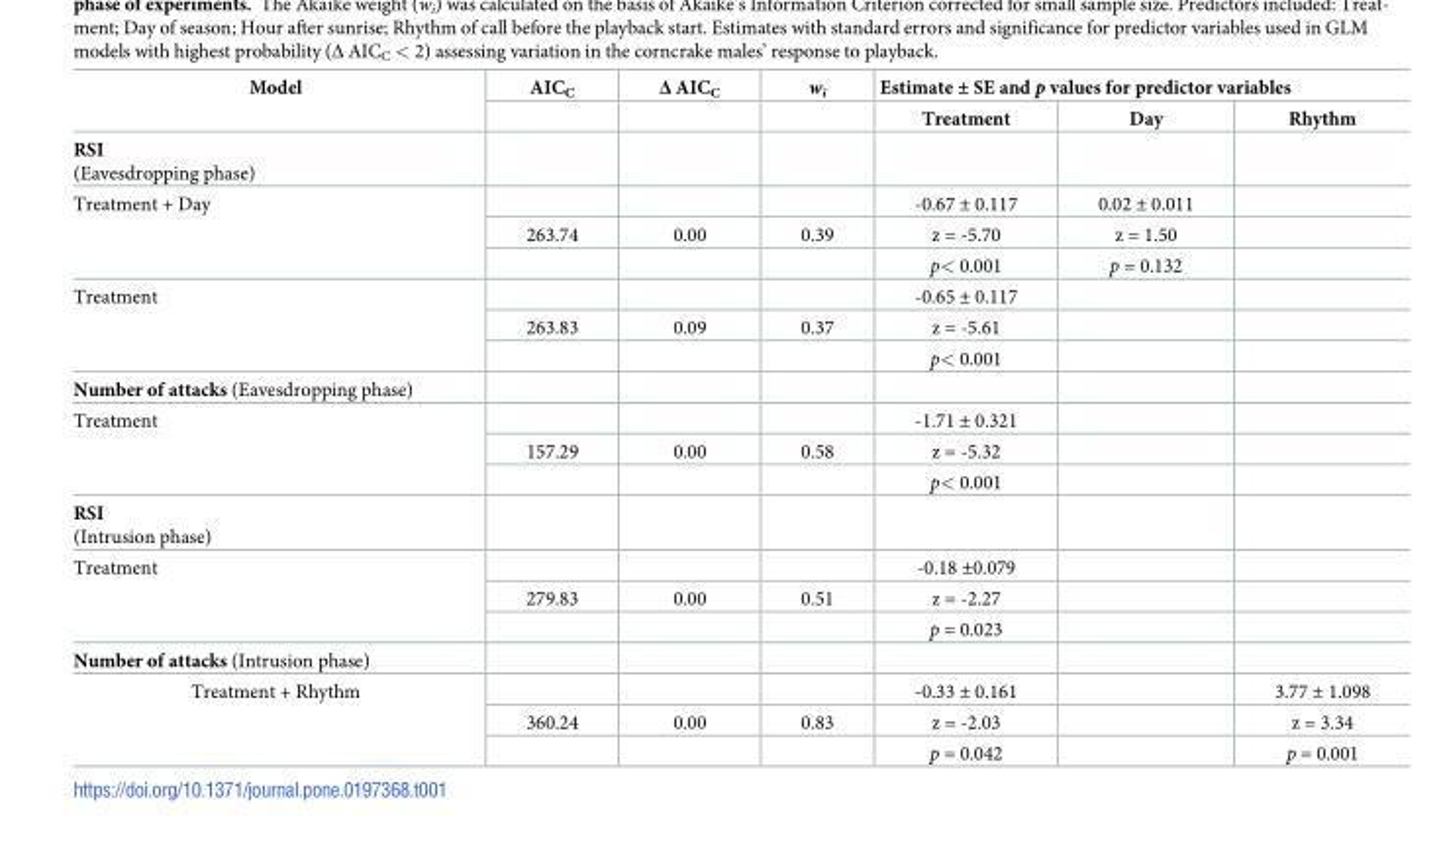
<table><thead><tr><td rowspan="2">Model</td><td rowspan="2">AIC<sub>C</sub></td><td rowspan="2">Δ AIC<sub>C</sub></td><td rowspan="2">w<sub>i</sub></td><td colspan="3">Estimate ± SE and p values for predictor variables</td></tr><tr><td>Treatment</td><td>Day</td><td>Rhythm</td></tr></thead><tbody><tr><td colspan="7">RSI (Eavesdropping phase)</td></tr><tr><td rowspan="3">Treatment + Day</td><td></td><td></td><td></td><td>-0.67 ± 0.117</td><td>0.02 ± 0.011</td><td></td></tr><tr><td>263.74</td><td>0.00</td><td>0.39</td><td>z = -5.70</td><td>z = 1.50</td><td></td></tr><tr><td></td><td></td><td></td><td>p&lt; 0.001</td><td>p = 0.132</td><td></td></tr><tr><td rowspan="3">Treatment</td><td></td><td></td><td></td><td>-0.65 ± 0.117</td><td></td><td></td></tr><tr><td>263.83</td><td>0.09</td><td>0.37</td><td>z = -5.61</td><td></td><td></td></tr><tr><td></td><td></td><td></td><td>p&lt; 0.001</td><td></td><td></td></tr><tr><td colspan="7">Number of attacks (Eavesdropping phase)</td></tr><tr><td rowspan="3">Treatment</td><td></td><td></td><td></td><td>-1.71 ± 0.321</td><td></td><td></td></tr><tr><td>157.29</td><td>0.00</td><td>0.58</td><td>z = -5.32</td><td></td><td></td></tr><tr><td></td><td></td><td></td><td>p&lt; 0.001</td><td></td><td></td></tr><tr><td colspan="7">RSI (Intrusion phase)</td></tr><tr><td rowspan="3">Treatment</td><td></td><td></td><td></td><td>-0.18 ±0.079</td><td></td><td></td></tr><tr><td>279.83</td><td>0.00</td><td>0.51</td><td>z = -2.27</td><td></td><td></td></tr><tr><td></td><td></td><td></td><td>p = 0.023</td><td></td><td></td></tr><tr><td colspan="7">Number of attacks (Intrusion phase)</td></tr><tr><td rowspan="3">Treatment + Rhythm</td><td></td><td></td><td></td><td>-0.33 ± 0.161</td><td></td><td>3.77 ± 1.098</td></tr><tr><td>360.24</td><td>0.00</td><td>0.83</td><td>z = -2.03</td><td></td><td>z = 3.34</td></tr><tr><td></td><td></td><td></td><td>p = 0.042</td><td></td><td>p = 0.001</td></tr></tbody></table>